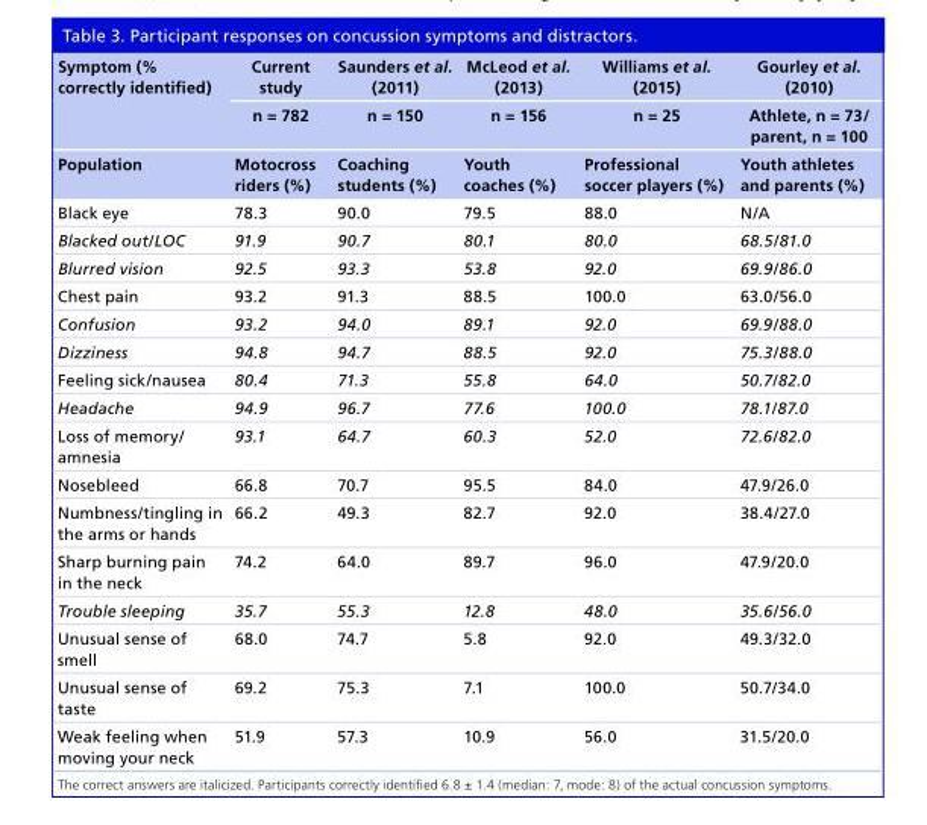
<table><thead><tr><td rowspan="3">Symptom (% correctly identified) Population</td><td rowspan="3">Current study n = 782 Motocross riders (%)</td><td rowspan="3">Saunders et al. (2011) n = 150 Coaching students (%)</td><td rowspan="3">McLeod et al. (2013) n = 156 Youth coaches (%)</td><td rowspan="3">Williams et al. (2015) n = 25 Professional soccer players (%)</td><td rowspan="3">Gourley et al. (2010) Athlete, n = 73/ parent, n = 100 Youth athletes and parents (%)</td></tr><tr></tr><tr></tr></thead><tbody><tr><td>Black eye</td><td>78.3</td><td>90.0</td><td>79.5</td><td>88.0</td><td>N/A</td></tr><tr><td>Blacked out/LOC</td><td>91.9</td><td>90.7</td><td>80.1</td><td>80.0</td><td>68.5/81.0</td></tr><tr><td>Blurred vision</td><td>92.5</td><td>93.3</td><td>53.8</td><td>92.0</td><td>69.9/86.0</td></tr><tr><td>Chest pain</td><td>93.2</td><td>91.3</td><td>88.5</td><td>100.0</td><td>63.0/56.0</td></tr><tr><td>Confusion</td><td>93.2</td><td>94.0</td><td>89.1</td><td>92.0</td><td>69.9/88.0</td></tr><tr><td>Dizziness</td><td>94.8</td><td>94.7</td><td>88.5</td><td>92.0</td><td>75.3/88.0</td></tr><tr><td>Feeling sick/nausea</td><td>80.4</td><td>71.3</td><td>55.8</td><td>64.0</td><td>50.7/82.0</td></tr><tr><td>Headache</td><td>94.9</td><td>96.7</td><td>77.6</td><td>100.0</td><td>78.1/87.0</td></tr><tr><td>Loss of memory/ amnesia</td><td>93.1</td><td>64.7</td><td>60.3</td><td>52.0</td><td>72.6/82.0</td></tr><tr><td>Nosebleed</td><td>66.8</td><td>70.7</td><td>95.5</td><td>84.0</td><td>47.9/26.0</td></tr><tr><td>Numbness/tingling in the arms or hands</td><td>66.2</td><td>49.3</td><td>82.7</td><td>92.0</td><td>38.4/27.0</td></tr><tr><td>Sharp burning pain in the neck</td><td>74.2</td><td>64.0</td><td>89.7</td><td>96.0</td><td>47.9/20.0</td></tr><tr><td>Trouble sleeping</td><td>35.7</td><td>55.3</td><td>12.8</td><td>48.0</td><td>35.6/56.0</td></tr><tr><td>Unusual sense of smell</td><td>68.0</td><td>74.7</td><td>5.8</td><td>92.0</td><td>49.3/32.0</td></tr><tr><td>Unusual sense of taste</td><td>69.2</td><td>75.3</td><td>7.1</td><td>100.0</td><td>50.7/34.0</td></tr><tr><td>Weak feeling when moving your neck</td><td>51.9</td><td>57.3</td><td>10.9</td><td>56.0</td><td>31.5/20.0</td></tr></tbody></table>